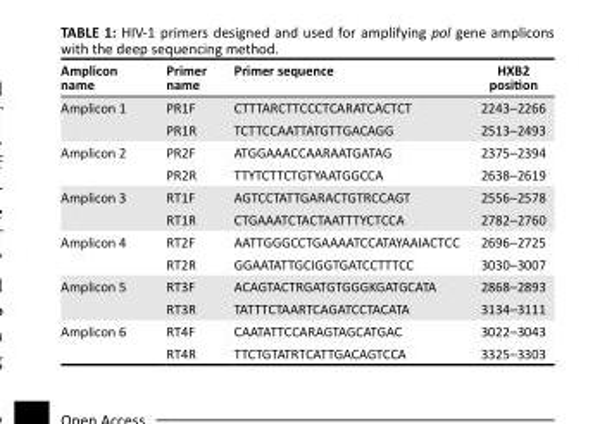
<table><thead><tr><td>Amplicon name</td><td>Primer name</td><td>Primer sequence</td><td>HXB2 position</td></tr></thead><tbody><tr><td rowspan="2">Amplicon 1</td><td>PR1F</td><td>CTTTARCTTCCCTCARATCACTCT</td><td>2243–2266</td></tr><tr><td>PR1R</td><td>TCTTCCAATTATGTTGACAGG</td><td>2513–2493</td></tr><tr><td rowspan="2">Amplicon 2</td><td>PR2F</td><td>ATGGAAACCAARAATGATAG</td><td>2375–2394</td></tr><tr><td>PR2R</td><td>TTYTCTTCTGTYAATGGCCA</td><td>2638–2619</td></tr><tr><td rowspan="2">Amplicon 3</td><td>RT1F</td><td>AGTCCTATTGARACTGTRCCAGT</td><td>2556–2578</td></tr><tr><td>RT1R</td><td>CTGAAATCTACTAATTTYCTCCA</td><td>2782–2760</td></tr><tr><td rowspan="2">Amplicon 4</td><td>RT2F</td><td>AATTGGGCCTGAAAATCCATAYAAIACTCC</td><td>2696–2725</td></tr><tr><td>RT2R</td><td>GGAATATTGCIGGTGATCCTTTCC</td><td>3030–3007</td></tr><tr><td rowspan="2">Amplicon 5</td><td>RT3F</td><td>ACAGTACTRGATGTGGGKGATGCATA</td><td>2868–2893</td></tr><tr><td>RT3R</td><td>TATTTCTAARTCAGATCCTACATA</td><td>3134–3111</td></tr><tr><td rowspan="2">Amplicon 6</td><td>RT4F</td><td>CAATATTCCARAGTAGCATGAC</td><td>3022–3043</td></tr><tr><td>RT4R</td><td>TTCTGTATRTCATTGACAGTCCA</td><td>3325–3303</td></tr></tbody></table>